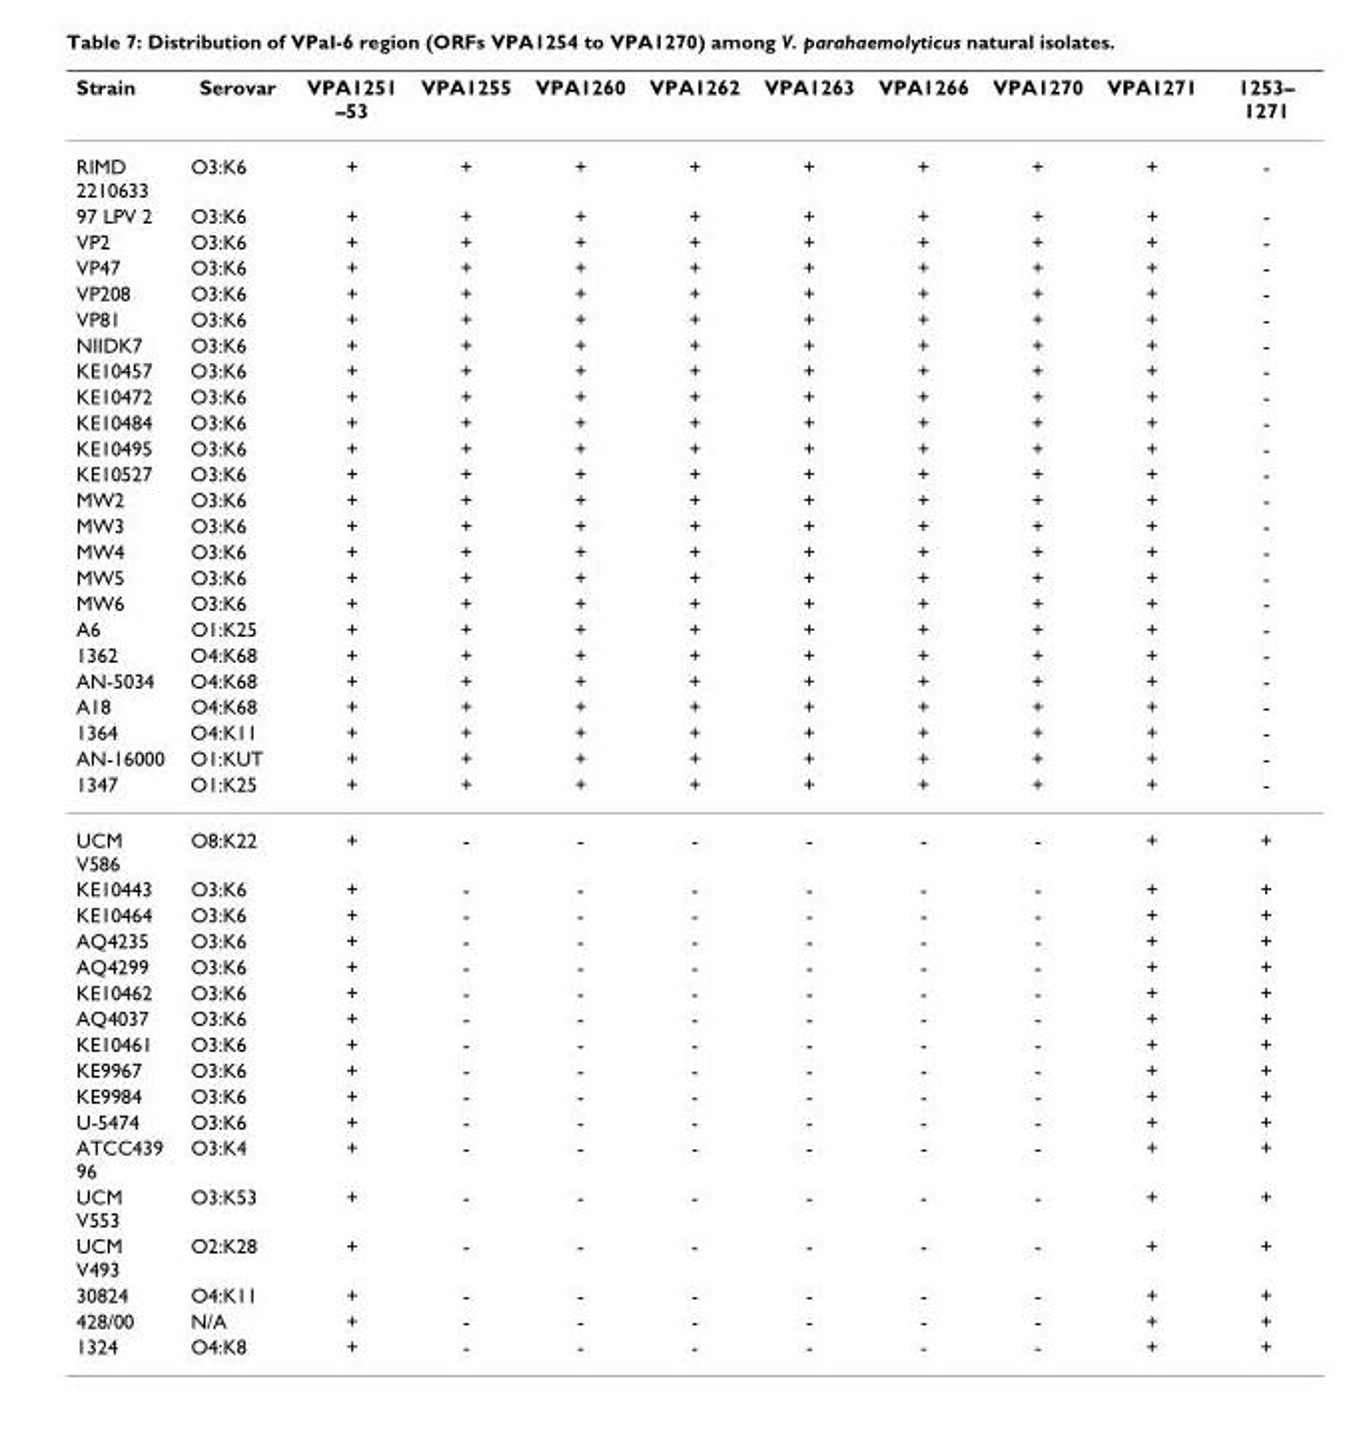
<table><thead><tr><td>Strain</td><td>Serovar</td><td>VPA1251 –53</td><td>VPA1255</td><td>VPA1260</td><td>VPA1262</td><td>VPA1263</td><td>VPA1266</td><td>VPA1270</td><td>VPA1271</td><td>1253– 1271</td></tr></thead><tbody><tr><td>RIMD 2210633</td><td>O3:K6</td><td>+</td><td>+</td><td>+</td><td>+</td><td>+</td><td>+</td><td>+</td><td>+</td><td>-</td></tr><tr><td>97 LPV 2</td><td>O3:K6</td><td>+</td><td>+</td><td>+</td><td>+</td><td>+</td><td>+</td><td>+</td><td>+</td><td>-</td></tr><tr><td>VP2</td><td>O3:K6</td><td>+</td><td>+</td><td>+</td><td>+</td><td>+</td><td>+</td><td>+</td><td>+</td><td>-</td></tr><tr><td>VP47</td><td>O3:K6</td><td>+</td><td>+</td><td>+</td><td>+</td><td>+</td><td>+</td><td>+</td><td>+</td><td>-</td></tr><tr><td>VP208</td><td>O3:K6</td><td>+</td><td>+</td><td>+</td><td>+</td><td>+</td><td>+</td><td>+</td><td>+</td><td>-</td></tr><tr><td>VP81</td><td>O3:K6</td><td>+</td><td>+</td><td>+</td><td>+</td><td>+</td><td>+</td><td>+</td><td>+</td><td>-</td></tr><tr><td>NIIDK7</td><td>O3:K6</td><td>+</td><td>+</td><td>+</td><td>+</td><td>+</td><td>+</td><td>+</td><td>+</td><td>-</td></tr><tr><td>KE10457</td><td>O3:K6</td><td>+</td><td>+</td><td>+</td><td>+</td><td>+</td><td>+</td><td>+</td><td>+</td><td>-</td></tr><tr><td>KE10472</td><td>O3:K6</td><td>+</td><td>+</td><td>+</td><td>+</td><td>+</td><td>+</td><td>+</td><td>+</td><td>-</td></tr><tr><td>KE10484</td><td>O3:K6</td><td>+</td><td>+</td><td>+</td><td>+</td><td>+</td><td>+</td><td>+</td><td>+</td><td>-</td></tr><tr><td>KE10495</td><td>O3:K6</td><td>+</td><td>+</td><td>+</td><td>+</td><td>+</td><td>+</td><td>+</td><td>+</td><td>-</td></tr><tr><td>KE10527</td><td>O3:K6</td><td>+</td><td>+</td><td>+</td><td>+</td><td>+</td><td>+</td><td>+</td><td>+</td><td>-</td></tr><tr><td>MW2</td><td>O3:K6</td><td>+</td><td>+</td><td>+</td><td>+</td><td>+</td><td>+</td><td>+</td><td>+</td><td>-</td></tr><tr><td>MW3</td><td>O3:K6</td><td>+</td><td>+</td><td>+</td><td>+</td><td>+</td><td>+</td><td>+</td><td>+</td><td>-</td></tr><tr><td>MW4</td><td>O3:K6</td><td>+</td><td>+</td><td>+</td><td>+</td><td>+</td><td>+</td><td>+</td><td>+</td><td>-</td></tr><tr><td>MW5</td><td>O3:K6</td><td>+</td><td>+</td><td>+</td><td>+</td><td>+</td><td>+</td><td>+</td><td>+</td><td>-</td></tr><tr><td>MW6</td><td>O3:K6</td><td>+</td><td>+</td><td>+</td><td>+</td><td>+</td><td>+</td><td>+</td><td>+</td><td>-</td></tr><tr><td>A6</td><td>O1:K25</td><td>+</td><td>+</td><td>+</td><td>+</td><td>+</td><td>+</td><td>+</td><td>+</td><td>-</td></tr><tr><td>1362</td><td>O4:K68</td><td>+</td><td>+</td><td>+</td><td>+</td><td>+</td><td>+</td><td>+</td><td>+</td><td>-</td></tr><tr><td>AN-5034</td><td>O4:K68</td><td>+</td><td>+</td><td>+</td><td>+</td><td>+</td><td>+</td><td>+</td><td>+</td><td>-</td></tr><tr><td>A18</td><td>O4:K68</td><td>+</td><td>+</td><td>+</td><td>+</td><td>+</td><td>+</td><td>+</td><td>+</td><td>-</td></tr><tr><td>1364</td><td>O4:K11</td><td>+</td><td>+</td><td>+</td><td>+</td><td>+</td><td>+</td><td>+</td><td>+</td><td>-</td></tr><tr><td>AN-16000</td><td>O1:KUT</td><td>+</td><td>+</td><td>+</td><td>+</td><td>+</td><td>+</td><td>+</td><td>+</td><td>-</td></tr><tr><td>1347</td><td>O1:K25</td><td>+</td><td>+</td><td>+</td><td>+</td><td>+</td><td>+</td><td>+</td><td>+</td><td>-</td></tr><tr><td>UCM V586</td><td>O8:K22</td><td>+</td><td>-</td><td>-</td><td>-</td><td>-</td><td>-</td><td>-</td><td>+</td><td>+</td></tr><tr><td>KE10443</td><td>O3:K6</td><td>+</td><td>-</td><td>-</td><td>-</td><td>-</td><td>-</td><td>-</td><td>+</td><td>+</td></tr><tr><td>KE10464</td><td>O3:K6</td><td>+</td><td>-</td><td>-</td><td>-</td><td>-</td><td>-</td><td>-</td><td>+</td><td>+</td></tr><tr><td>AQ4235</td><td>O3:K6</td><td>+</td><td>-</td><td>-</td><td>-</td><td>-</td><td>-</td><td>-</td><td>+</td><td>+</td></tr><tr><td>AQ4299</td><td>O3:K6</td><td>+</td><td>-</td><td>-</td><td>-</td><td>-</td><td>-</td><td>-</td><td>+</td><td>+</td></tr><tr><td>KE10462</td><td>O3:K6</td><td>+</td><td>-</td><td>-</td><td>-</td><td>-</td><td>-</td><td>-</td><td>+</td><td>+</td></tr><tr><td>AQ4037</td><td>O3:K6</td><td>+</td><td>-</td><td>-</td><td>-</td><td>-</td><td>-</td><td>-</td><td>+</td><td>+</td></tr><tr><td>KE10461</td><td>O3:K6</td><td>+</td><td>-</td><td>-</td><td>-</td><td>-</td><td>-</td><td>-</td><td>+</td><td>+</td></tr><tr><td>KE9967</td><td>O3:K6</td><td>+</td><td>-</td><td>-</td><td>-</td><td>-</td><td>-</td><td>-</td><td>+</td><td>+</td></tr><tr><td>KE9984</td><td>O3:K6</td><td>+</td><td>-</td><td>-</td><td>-</td><td>-</td><td>-</td><td>-</td><td>+</td><td>+</td></tr><tr><td>U-5474</td><td>O3:K6</td><td>+</td><td>-</td><td>-</td><td>-</td><td>-</td><td>-</td><td>-</td><td>+</td><td>+</td></tr><tr><td>ATCC439 96</td><td>O3:K4</td><td>+</td><td>-</td><td>-</td><td>-</td><td>-</td><td>-</td><td>-</td><td>+</td><td>+</td></tr><tr><td>UCM V553</td><td>O3:K53</td><td>+</td><td>-</td><td>-</td><td>-</td><td>-</td><td>-</td><td>-</td><td>+</td><td>+</td></tr><tr><td>UCM V493</td><td>O2:K28</td><td>+</td><td>-</td><td>-</td><td>-</td><td>-</td><td>-</td><td>-</td><td>+</td><td>+</td></tr><tr><td>30824</td><td>O4:K11</td><td>+</td><td>-</td><td>-</td><td>-</td><td>-</td><td>-</td><td>-</td><td>+</td><td>+</td></tr><tr><td>428/00</td><td>N/A</td><td>+</td><td>-</td><td>-</td><td>-</td><td>-</td><td>-</td><td>-</td><td>+</td><td>+</td></tr><tr><td>1324</td><td>O4:K8</td><td>+</td><td>-</td><td>-</td><td>-</td><td>-</td><td>-</td><td>-</td><td>+</td><td>+</td></tr></tbody></table>